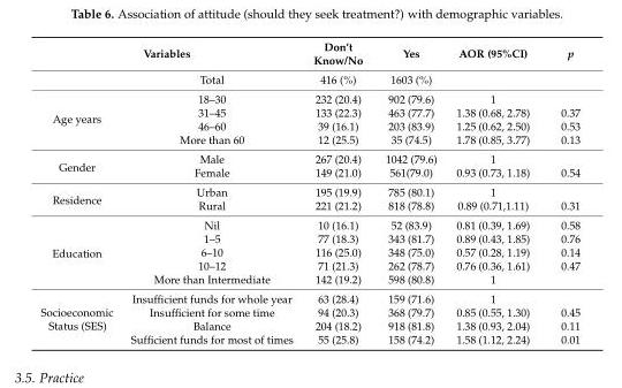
<table><thead><tr><td colspan="2">Variables</td><td rowspan="2">Don’t Know/No 416 (%)</td><td rowspan="2">Yes 1603 (%)</td><td rowspan="2">AOR (95%CI)</td><td rowspan="2">p</td></tr><tr><td></td><td>Total</td></tr></thead><tbody><tr><td rowspan="4">Age years</td><td>18–30</td><td>232 (20.4)</td><td>902 (79.6)</td><td>1</td><td></td></tr><tr><td>31–45</td><td>133 (22.3)</td><td>463 (77.7)</td><td>1.38 (0.68, 2.78)</td><td>0.37</td></tr><tr><td>46–60</td><td>39 (16.1)</td><td>203 (83.9)</td><td>1.25 (0.62, 2.50)</td><td>0.53</td></tr><tr><td>More than 60</td><td>12 (25.5)</td><td>35 (74.5)</td><td>1.78 (0.85, 3.77)</td><td>0.13</td></tr><tr><td rowspan="2">Gender</td><td>Male</td><td>267 (20.4)</td><td>1042 (79.6)</td><td>1</td><td></td></tr><tr><td>Female</td><td>149 (21.0)</td><td>561(79.0)</td><td>0.93 (0.73, 1.18)</td><td>0.54</td></tr><tr><td rowspan="2">Residence</td><td>Urban</td><td>195 (19.9)</td><td>785 (80.1)</td><td>1</td><td></td></tr><tr><td>Rural</td><td>221 (21.2)</td><td>818 (78.8)</td><td>0.89 (0.71,1.11)</td><td>0.31</td></tr><tr><td rowspan="5">Education</td><td>Nil</td><td>10 (16.1)</td><td>52 (83.9)</td><td>0.81 (0.39, 1.69)</td><td>0.58</td></tr><tr><td>1–5</td><td>77 (18.3)</td><td>343 (81.7)</td><td>0.89 (0.43, 1.85)</td><td>0.76</td></tr><tr><td>6–10</td><td>116 (25.0)</td><td>348 (75.0)</td><td>0.57 (0.28, 1.19)</td><td>0.14</td></tr><tr><td>10–12</td><td>71 (21.3)</td><td>262 (78.7)</td><td>0.76 (0.36, 1.61)</td><td>0.47</td></tr><tr><td>More than Intermediate</td><td>142 (19.2)</td><td>598 (80.8)</td><td>1</td><td></td></tr><tr><td rowspan="4">Socioeconomic Status (SES)</td><td>Insufficient funds for whole year</td><td>63 (28.4)</td><td>159 (71.6)</td><td>1</td><td></td></tr><tr><td>Insufficient for some time</td><td>94 (20.3)</td><td>368 (79.7)</td><td>0.85 (0.55, 1.30)</td><td>0.45</td></tr><tr><td>Balance</td><td>204 (18.2)</td><td>918 (81.8)</td><td>1.38 (0.93, 2.04)</td><td>0.11</td></tr><tr><td>Sufficient funds for most of times</td><td>55 (25.8)</td><td>158 (74.2)</td><td>1.58 (1.12, 2.24)</td><td>0.01</td></tr></tbody></table>